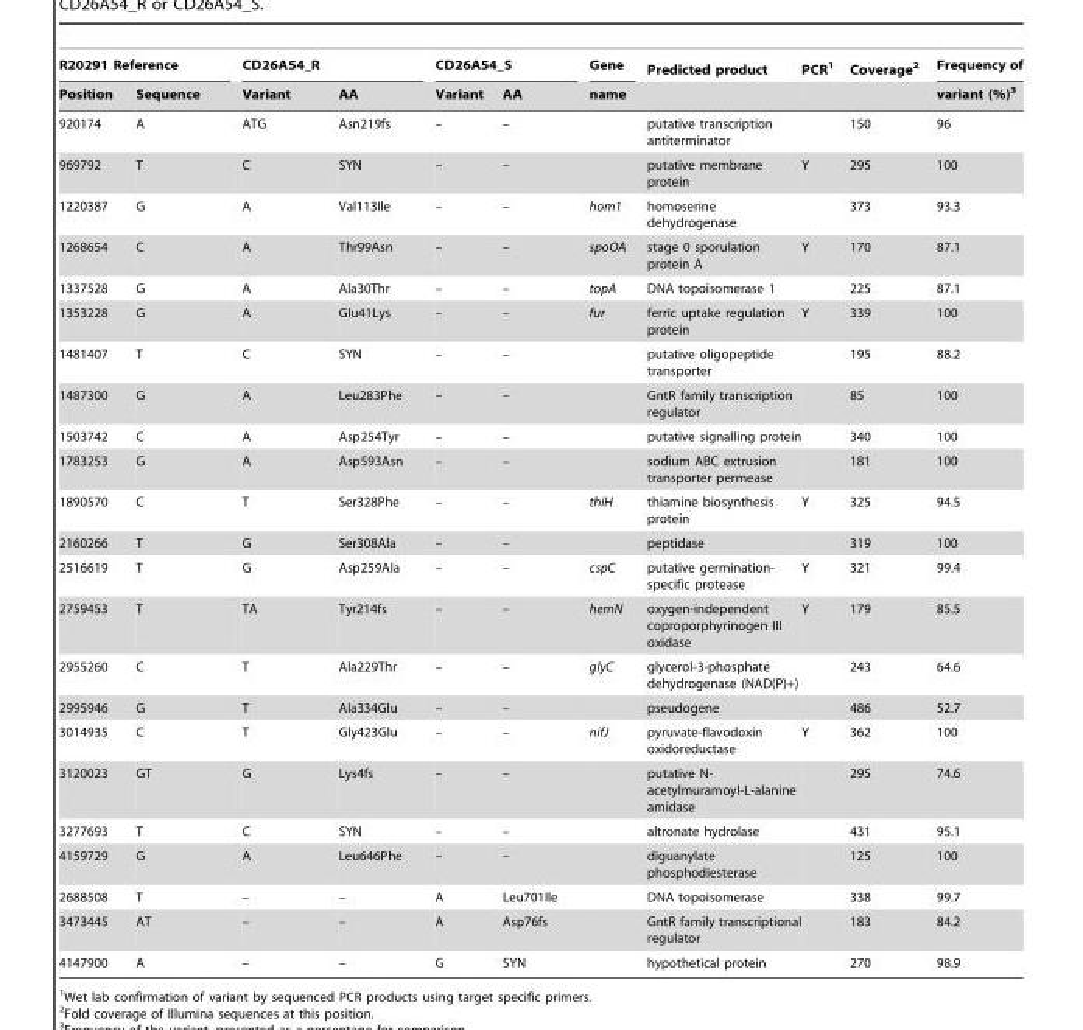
<table><thead><tr><td colspan="2">R20291 Reference</td><td colspan="2">CD26A54_R</td><td colspan="2">CD26A54_S</td><td rowspan="2">Gene name</td><td rowspan="2">Predicted product</td><td rowspan="2">PCR<sup>1</sup></td><td rowspan="2">Coverage<sup>2</sup></td><td rowspan="2">Frequency of variant (%)<sup>3</sup></td></tr><tr><td>Position</td><td>Sequence</td><td>Variant</td><td>AA</td><td>Variant</td><td>AA</td></tr></thead><tbody><tr><td>920174</td><td>A</td><td>ATG</td><td>Asn219fs</td><td>–</td><td>–</td><td></td><td>putative transcription antiterminator</td><td></td><td>150</td><td>96</td></tr><tr><td>969792</td><td>T</td><td>C</td><td>SYN</td><td>–</td><td>–</td><td></td><td>putative membrane protein</td><td>Y</td><td>295</td><td>100</td></tr><tr><td>1220387</td><td>G</td><td>A</td><td>Val113Ile</td><td>–</td><td>–</td><td>hom1</td><td>homoserine dehydrogenase</td><td></td><td>373</td><td>93.3</td></tr><tr><td>1268654</td><td>C</td><td>A</td><td>Thr99Asn</td><td>–</td><td>–</td><td>spoOA</td><td>stage 0 sporulation protein A</td><td>Y</td><td>170</td><td>87.1</td></tr><tr><td>1337528</td><td>G</td><td>A</td><td>Ala30Thr</td><td>–</td><td>–</td><td>topA</td><td>DNA topoisomerase 1</td><td></td><td>225</td><td>87.1</td></tr><tr><td>1353228</td><td>G</td><td>A</td><td>Glu41Lys</td><td>–</td><td>–</td><td>fur</td><td>ferric uptake regulation protein</td><td>Y</td><td>339</td><td>100</td></tr><tr><td>1481407</td><td>T</td><td>C</td><td>SYN</td><td>–</td><td>–</td><td></td><td>putative oligopeptide transporter</td><td></td><td>195</td><td>88.2</td></tr><tr><td>1487300</td><td>G</td><td>A</td><td>Leu283Phe</td><td>–</td><td>–</td><td></td><td>GntR family transcription regulator</td><td></td><td>85</td><td>100</td></tr><tr><td>1503742</td><td>C</td><td>A</td><td>Asp254Tyr</td><td>–</td><td>–</td><td></td><td>putative signalling protein</td><td></td><td>340</td><td>100</td></tr><tr><td>1783253</td><td>G</td><td>A</td><td>Asp593Asn</td><td>–</td><td>–</td><td></td><td>sodium ABC extrusion transporter permease</td><td></td><td>181</td><td>100</td></tr><tr><td>1890570</td><td>C</td><td>T</td><td>Ser328Phe</td><td>–</td><td>–</td><td>thiH</td><td>thiamine biosynthesis protein</td><td>Y</td><td>325</td><td>94.5</td></tr><tr><td>2160266</td><td>T</td><td>G</td><td>Ser308Ala</td><td>–</td><td>–</td><td></td><td>peptidase</td><td></td><td>319</td><td>100</td></tr><tr><td>2516619</td><td>T</td><td>G</td><td>Asp259Ala</td><td>–</td><td>–</td><td>cspC</td><td>putative germination- specific protease</td><td>Y</td><td>321</td><td>99.4</td></tr><tr><td>2759453</td><td>T</td><td>TA</td><td>Tyr214fs</td><td>–</td><td>–</td><td>hemN</td><td>oxygen-independent coproporphyrinogen III oxidase</td><td>Y</td><td>179</td><td>85.5</td></tr><tr><td>2955260</td><td>C</td><td>T</td><td>Ala229Thr</td><td>–</td><td>–</td><td>glyC</td><td>glycerol-3-phosphate dehydrogenase (NAD(P)+)</td><td></td><td>243</td><td>64.6</td></tr><tr><td>2995946</td><td>G</td><td>T</td><td>Ala334Glu</td><td>–</td><td>–</td><td></td><td>pseudogene</td><td></td><td>486</td><td>52.7</td></tr><tr><td>3014935</td><td>C</td><td>T</td><td>Gly423Glu</td><td>–</td><td>–</td><td>nifJ</td><td>pyruvate-flavodoxin oxidoreductase</td><td>Y</td><td>362</td><td>100</td></tr><tr><td>3120023</td><td>GT</td><td>G</td><td>Lys4fs</td><td>–</td><td>–</td><td></td><td>putative N- acetylmuramoyl-L-alanine amidase</td><td></td><td>295</td><td>74.6</td></tr><tr><td>3277693</td><td>T</td><td>C</td><td>SYN</td><td>–</td><td>–</td><td></td><td>altronate hydrolase</td><td></td><td>431</td><td>95.1</td></tr><tr><td>4159729</td><td>G</td><td>A</td><td>Leu646Phe</td><td>–</td><td>–</td><td></td><td>diguanylate phosphodiesterase</td><td></td><td>125</td><td>100</td></tr><tr><td>2688508</td><td>T</td><td>–</td><td>–</td><td>A</td><td>Leu701Ile</td><td></td><td>DNA topoisomerase</td><td></td><td>338</td><td>99.7</td></tr><tr><td>3473445</td><td>AT</td><td>–</td><td>–</td><td>A</td><td>Asp76fs</td><td></td><td>GntR family transcriptional regulator</td><td></td><td>183</td><td>84.2</td></tr><tr><td>4147900</td><td>A</td><td>–</td><td>–</td><td>G</td><td>SYN</td><td></td><td>hypothetical protein</td><td></td><td>270</td><td>98.9</td></tr></tbody></table>